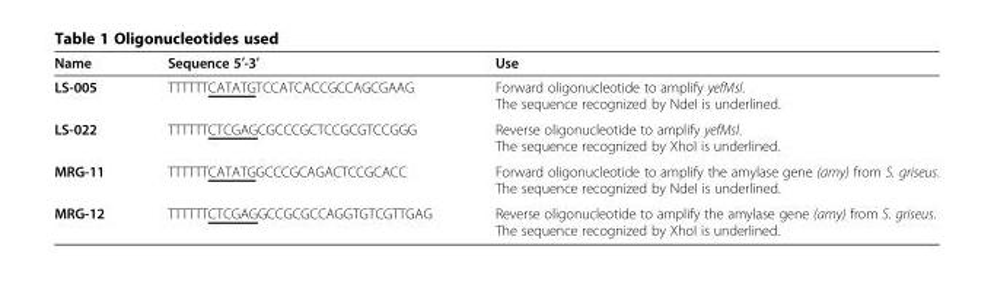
<table><thead><tr><td>Name</td><td>Sequence 5′-3′</td><td>Use</td></tr></thead><tbody><tr><td>LS-005</td><td>TTTTTTCATATGTCCATCACCGCCAGCGAAG</td><td>Forward oligonucleotide to amplify yefMsl. The sequence recognized by NdeI is underlined.</td></tr><tr><td>LS-022</td><td>TTTTTTCTCGAGCGCCCGCTCCGCGTCCGGG</td><td>Reverse oligonucleotide to amplify yefMsl. The sequence recognized by XhoI is underlined.</td></tr><tr><td>MRG-11</td><td>TTTTTTCATATGGCCCGCAGACTCCGCACC</td><td>Forward oligonucleotide to amplify the amylase gene (amy) from S. griseus. The sequence recognized by NdeI is underlined.</td></tr><tr><td>MRG-12</td><td>TTTTTTCTCGAGGCCGCGCCAGGTGTCGTTGAG</td><td>Reverse oligonucleotide to amplify the amylase gene (amy) from S. griseus. The sequence recognized by XhoI is underlined.</td></tr></tbody></table>